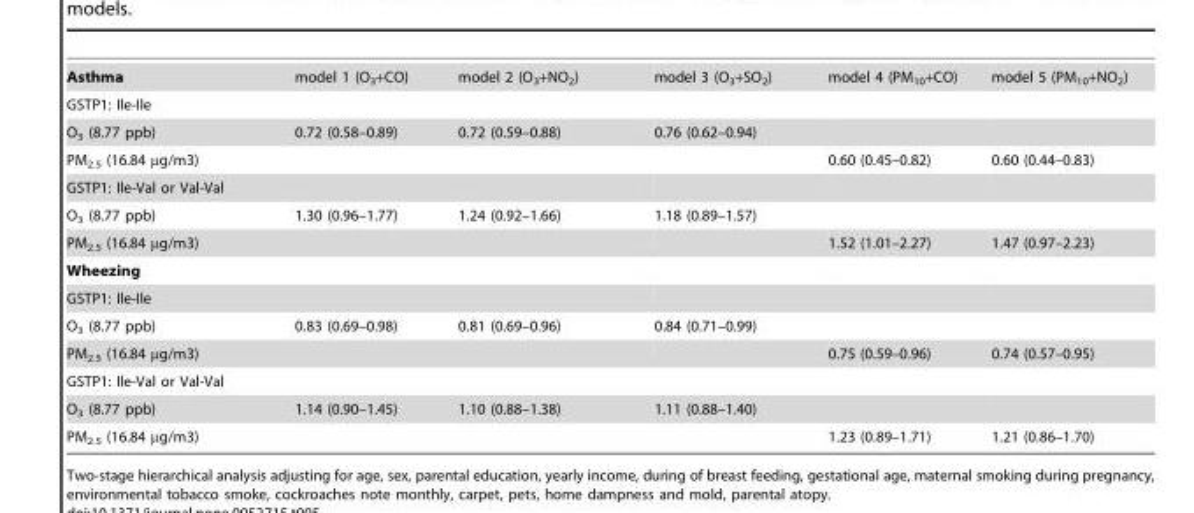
<table><tbody><tr><td>Asthma</td><td>model 1 (O<sub>3</sub>+CO)</td><td>model 2 (O<sub>3</sub>+NO<sub>2</sub>)</td><td>model 3 (O<sub>3</sub>+SO<sub>2</sub>)</td><td>model 4 (PM<sub>10</sub>+CO)</td><td>model 5 (PM<sub>10</sub>+NO<sub>2</sub>)</td></tr><tr><td colspan="6">GSTP1: Ile-Ile</td></tr><tr><td>O<sub>3</sub> (8.77 ppb)</td><td>0.72 (0.58–0.89)</td><td>0.72 (0.59–0.88)</td><td>0.76 (0.62–0.94)</td><td></td><td></td></tr><tr><td>PM<sub>2.5</sub> (16.84 µg/m3)</td><td></td><td></td><td></td><td>0.60 (0.45–0.82)</td><td>0.60 (0.44–0.83)</td></tr><tr><td colspan="6">GSTP1: Ile-Val or Val-Val</td></tr><tr><td>O<sub>3</sub> (8.77 ppb)</td><td>1.30 (0.96–1.77)</td><td>1.24 (0.92–1.66)</td><td>1.18 (0.89–1.57)</td><td></td><td></td></tr><tr><td>PM<sub>2.5</sub> (16.84 µg/m3)</td><td></td><td></td><td></td><td>1.52 (1.01–2.27)</td><td>1.47 (0.97–2.23)</td></tr><tr><td colspan="6">Wheezing</td></tr><tr><td colspan="6">GSTP1: Ile-Ile</td></tr><tr><td>O<sub>3</sub> (8.77 ppb)</td><td>0.83 (0.69–0.98)</td><td>0.81 (0.69–0.96)</td><td>0.84 (0.71–0.99)</td><td></td><td></td></tr><tr><td>PM<sub>2.5</sub> (16.84 µg/m3)</td><td></td><td></td><td></td><td>0.75 (0.59–0.96)</td><td>0.74 (0.57–0.95)</td></tr><tr><td colspan="6">GSTP1: Ile-Val or Val-Val</td></tr><tr><td>O<sub>3</sub> (8.77 ppb)</td><td>1.14 (0.90–1.45)</td><td>1.10 (0.88–1.38)</td><td>1.11 (0.88–1.40)</td><td></td><td></td></tr><tr><td>PM<sub>2.5</sub> (16.84 µg/m3)</td><td></td><td></td><td></td><td>1.23 (0.89–1.71)</td><td>1.21 (0.86–1.70)</td></tr></tbody></table>